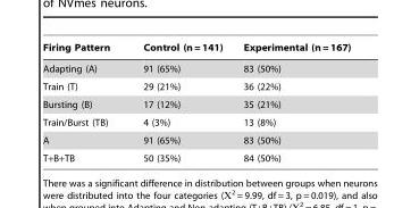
<table><thead><tr><td>Firing Pattern</td><td>Control (n = 141)</td><td>Experimental (n = 167)</td></tr></thead><tbody><tr><td>Adapting (A)</td><td>91 (65%)</td><td>83 (50%)</td></tr><tr><td>Train (T)</td><td>29 (21%)</td><td>36 (22%)</td></tr><tr><td>Bursting (B)</td><td>17 (12%)</td><td>35 (21%)</td></tr><tr><td>Train/Burst (TB)</td><td>4 (3%)</td><td>13 (8%)</td></tr><tr><td>A</td><td>91 (65%)</td><td>83 (50%)</td></tr><tr><td>T+B+TB</td><td>50 (35%)</td><td>84 (50%)</td></tr></tbody></table>